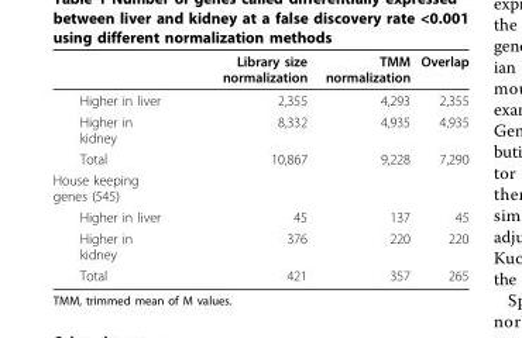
<table><thead><tr><td></td><td>Library size normalization</td><td>TMM normalization</td><td>Overlap</td></tr></thead><tbody><tr><td>Higher in liver</td><td>2,355</td><td>4,293</td><td>2,355</td></tr><tr><td>Higher in kidney</td><td>8,332</td><td>4,935</td><td>4,935</td></tr><tr><td>Total</td><td>10,867</td><td>9,228</td><td>7,290</td></tr><tr><td colspan="4">House keeping genes (545)</td></tr><tr><td>Higher in liver</td><td>45</td><td>137</td><td>45</td></tr><tr><td>Higher in kidney</td><td>376</td><td>220</td><td>220</td></tr><tr><td>Total</td><td>421</td><td>357</td><td>265</td></tr></tbody></table>